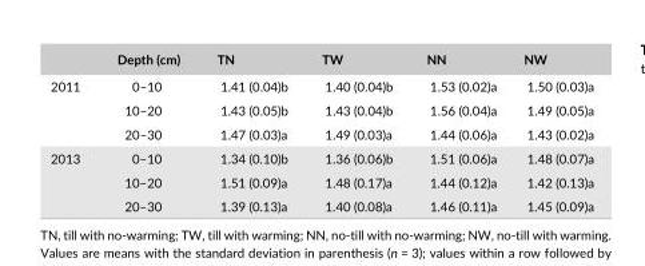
<table><thead><tr><td></td><td>Depth (cm)</td><td>TN</td><td>TW</td><td>NN</td><td>NW</td></tr></thead><tbody><tr><td rowspan="3">2011</td><td>0–10</td><td>1.41 (0.04)b</td><td>1.40 (0.04)b</td><td>1.53 (0.02)a</td><td>1.50 (0.03)a</td></tr><tr><td>10–20</td><td>1.43 (0.05)b</td><td>1.43 (0.04)b</td><td>1.56 (0.04)a</td><td>1.49 (0.05)a</td></tr><tr><td>20–30</td><td>1.47 (0.03)a</td><td>1.49 (0.03)a</td><td>1.44 (0.06)a</td><td>1.43 (0.02)a</td></tr><tr><td rowspan="3">2013</td><td>0–10</td><td>1.34 (0.10)b</td><td>1.36 (0.06)b</td><td>1.51 (0.06)a</td><td>1.48 (0.07)a</td></tr><tr><td>10–20</td><td>1.51 (0.09)a</td><td>1.48 (0.17)a</td><td>1.44 (0.12)a</td><td>1.42 (0.13)a</td></tr><tr><td>20–30</td><td>1.39 (0.13)a</td><td>1.40 (0.08)a</td><td>1.46 (0.11)a</td><td>1.45 (0.09)a</td></tr></tbody></table>